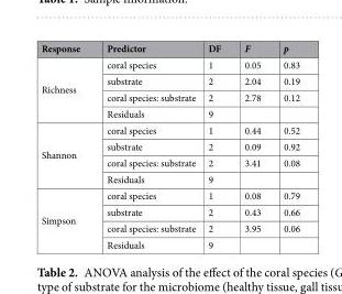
<table><thead><tr><td>Response</td><td>Predictor</td><td>DF</td><td>F</td><td>p</td></tr></thead><tbody><tr><td rowspan="4">Richness</td><td>coral species</td><td>1</td><td>0.05</td><td>0.83</td></tr><tr><td>substrate</td><td>2</td><td>2.04</td><td>0.19</td></tr><tr><td>coral species: substrate</td><td>2</td><td>2.78</td><td>0.12</td></tr><tr><td>Residuals</td><td>9</td><td></td><td></td></tr><tr><td rowspan="4">Shannon</td><td>coral species</td><td>1</td><td>0.44</td><td>0.52</td></tr><tr><td>substrate</td><td>2</td><td>0.09</td><td>0.92</td></tr><tr><td>coral species: substrate</td><td>2</td><td>3.41</td><td>0.08</td></tr><tr><td>Residuals</td><td>9</td><td></td><td></td></tr><tr><td rowspan="4">Simpson</td><td>coral species</td><td>1</td><td>0.08</td><td>0.79</td></tr><tr><td>substrate</td><td>2</td><td>0.43</td><td>0.66</td></tr><tr><td>coral species: substrate</td><td>2</td><td>3.95</td><td>0.06</td></tr><tr><td>Residuals</td><td>9</td><td></td><td></td></tr></tbody></table>